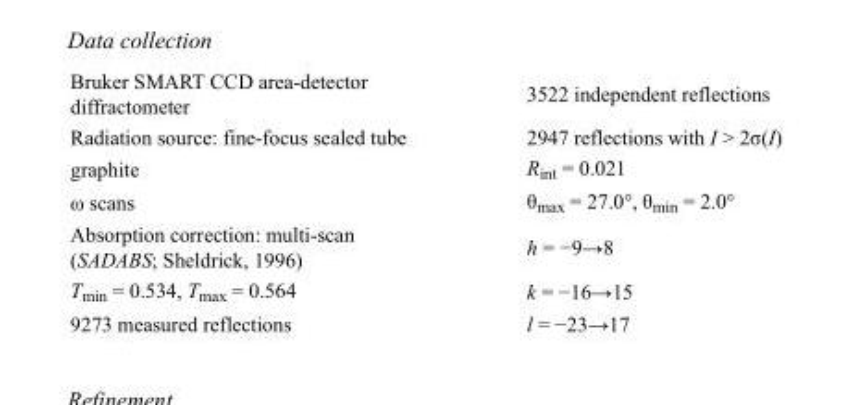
<table><tbody><tr><td>Bruker SMART CCD area-detector diffractometer</td><td>3522 independent reflections</td></tr><tr><td>Radiation source: fine-focus sealed tube</td><td>2947 reflections with I &gt; 2σ(I)</td></tr><tr><td>graphite</td><td>R<sub>int</sub> = 0.021</td></tr><tr><td>ω scans</td><td>θ<sub>max</sub> = 27.0°, θ<sub>min</sub> = 2.0°</td></tr><tr><td>Absorption correction: multi-scan (SADABS; Sheldrick, 1996)</td><td>h = −9→8</td></tr><tr><td>T<sub>min</sub> = 0.534, T<sub>max</sub> = 0.564</td><td>k = −16→15</td></tr><tr><td>9273 measured reflections</td><td>l = −23→17</td></tr></tbody></table>